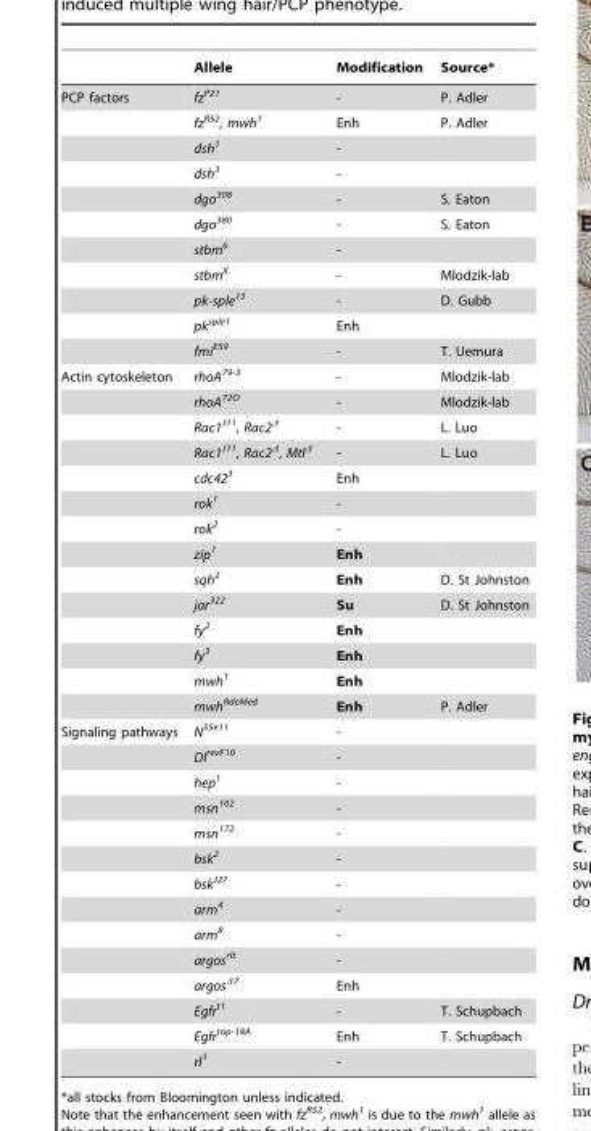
<table><thead><tr><td></td><td>Allele</td><td>Modification</td><td>Source*</td></tr></thead><tbody><tr><td rowspan="11">PCP factors</td><td>fz<sup>P21</sup></td><td>-</td><td>P. Adler</td></tr><tr><td>fz<sup>R52</sup>, mwh<sup>1</sup></td><td>Enh</td><td>P. Adler</td></tr><tr><td>dsh<sup>1</sup></td><td>-</td><td></td></tr><tr><td>dsh<sup>3</sup></td><td>-</td><td></td></tr><tr><td>dgo<sup>308</sup></td><td>-</td><td>S. Eaton</td></tr><tr><td>dgo<sup>380</sup></td><td>-</td><td>S. Eaton</td></tr><tr><td>stbm<sup>6</sup></td><td>-</td><td></td></tr><tr><td>stbm<sup>X</sup></td><td>-</td><td>Mlodzik-lab</td></tr><tr><td>pk-sple<sup>13</sup></td><td>-</td><td>D. Gubb</td></tr><tr><td>pk<sup>sple1</sup></td><td>Enh</td><td></td></tr><tr><td>fmi<sup>E59</sup></td><td>-</td><td>T. Uemura</td></tr><tr><td rowspan="14">Actin cytoskeleton</td><td>rhoA<sup>79-3</sup></td><td>-</td><td>Mlodzik-lab</td></tr><tr><td>rhoA<sup>72O</sup></td><td>-</td><td>Mlodzik-lab</td></tr><tr><td>Rac1<sup>J11</sup>, Rac2<sup>Δ</sup></td><td>-</td><td>L. Luo</td></tr><tr><td>Rac1<sup>J11</sup>, Rac2<sup>Δ</sup>, Mtl<sup>Δ</sup></td><td>-</td><td>L. Luo</td></tr><tr><td>cdc42<sup>3</sup></td><td>Enh</td><td></td></tr><tr><td>rok<sup>1</sup></td><td>-</td><td></td></tr><tr><td>rok<sup>2</sup></td><td>-</td><td></td></tr><tr><td>zip<sup>1</sup></td><td>Enh</td><td></td></tr><tr><td>sqh<sup>2</sup></td><td>Enh</td><td>D. St Johnston</td></tr><tr><td>jar<sup>322</sup></td><td>Su</td><td>D. St Johnston</td></tr><tr><td>fy<sup>2</sup></td><td>Enh</td><td></td></tr><tr><td>fy<sup>3</sup></td><td>Enh</td><td></td></tr><tr><td>mwh<sup>1</sup></td><td>Enh</td><td></td></tr><tr><td>mwh<sup>RdeMed</sup></td><td>Enh</td><td>P. Adler</td></tr><tr><td rowspan="14">Signaling pathways</td><td>N<sup>55e11</sup></td><td>-</td><td></td></tr><tr><td>Dl<sup>revF10</sup></td><td>-</td><td></td></tr><tr><td>hep<sup>1</sup></td><td>-</td><td></td></tr><tr><td>msn<sup>102</sup></td><td>-</td><td></td></tr><tr><td>msn<sup>172</sup></td><td>-</td><td></td></tr><tr><td>bsk<sup>2</sup></td><td>-</td><td></td></tr><tr><td>bsk<sup>J27</sup></td><td>-</td><td></td></tr><tr><td>arm<sup>4</sup></td><td>-</td><td></td></tr><tr><td>arm<sup>8</sup></td><td>-</td><td></td></tr><tr><td>argos<sup>rlt</sup></td><td>-</td><td></td></tr><tr><td>argos<sup>Δ7</sup></td><td>Enh</td><td></td></tr><tr><td>Egfr<sup>t1</sup></td><td>-</td><td>T. Schupbach</td></tr><tr><td>Egfr<sup>top-18A</sup></td><td>Enh</td><td>T. Schupbach</td></tr><tr><td>rl<sup>1</sup></td><td>-</td><td></td></tr></tbody></table>